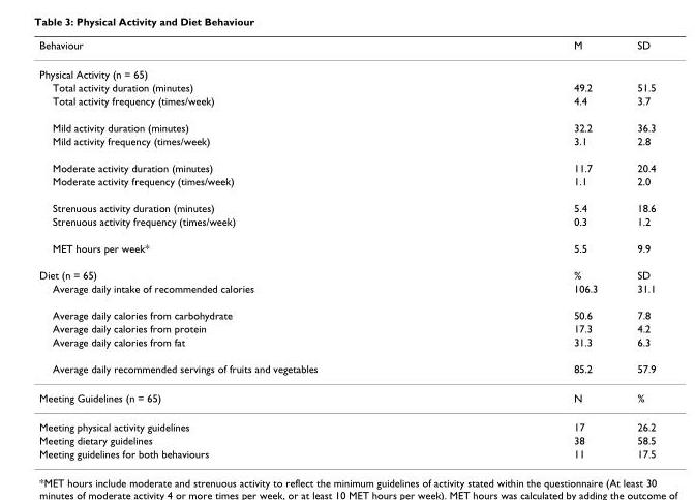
<table><thead><tr><td>Behaviour</td><td>M</td><td>SD</td></tr></thead><tbody><tr><td colspan="3">Physical Activity (n = 65)</td></tr><tr><td>Total activity duration (minutes)</td><td>49.2</td><td>51.5</td></tr><tr><td>Total activity frequency (times/week)</td><td>4.4</td><td>3.7</td></tr><tr><td>Mild activity duration (minutes)</td><td>32.2</td><td>36.3</td></tr><tr><td>Mild activity frequency (times/week)</td><td>3.1</td><td>2.8</td></tr><tr><td>Moderate activity duration (minutes)</td><td>11.7</td><td>20.4</td></tr><tr><td>Moderate activity frequency (times/week)</td><td>1.1</td><td>2.0</td></tr><tr><td>Strenuous activity duration (minutes)</td><td>5.4</td><td>18.6</td></tr><tr><td>Strenuous activity frequency (times/week)</td><td>0.3</td><td>1.2</td></tr><tr><td>MET hours per week*</td><td>5.5</td><td>9.9</td></tr><tr><td>Diet (n = 65)</td><td>%</td><td>SD</td></tr><tr><td>Average daily intake of recommended calories</td><td>106.3</td><td>31.1</td></tr><tr><td>Average daily calories from carbohydrate</td><td>50.6</td><td>7.8</td></tr><tr><td>Average daily calories from protein</td><td>17.3</td><td>4.2</td></tr><tr><td>Average daily calories from fat</td><td>31.3</td><td>6.3</td></tr><tr><td>Average daily recommended servings of fruits and vegetables</td><td>85.2</td><td>57.9</td></tr><tr><td>Meeting Guidelines (n = 65)</td><td>N</td><td>%</td></tr><tr><td>Meeting physical activity guidelines</td><td>17</td><td>26.2</td></tr><tr><td>Meeting dietary guidelines</td><td>38</td><td>58.5</td></tr><tr><td>Meeting guidelines for both behaviours</td><td>11</td><td>17.5</td></tr></tbody></table>